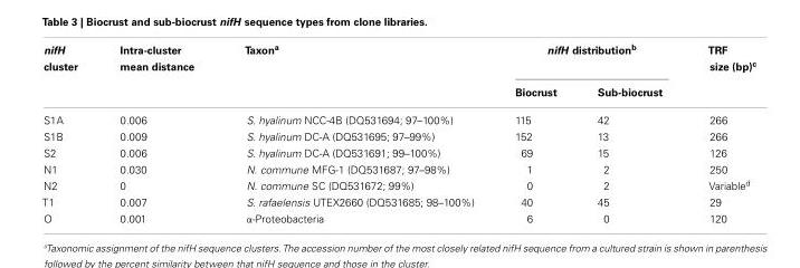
<table><thead><tr><td rowspan="2">nifH cluster</td><td rowspan="2">Intra-cluster mean distance</td><td rowspan="2">Taxon<sup>a</sup></td><td colspan="2">nifH distribution<sup>b</sup></td><td rowspan="2">TRF size (bp)<sup>c</sup></td></tr><tr><td>Biocrust</td><td>Sub-biocrust</td></tr></thead><tbody><tr><td>S1A</td><td>0.006</td><td>S. hyalinum NCC-4B (DQ531694; 97–100%)</td><td>115</td><td>42</td><td>266</td></tr><tr><td>S1B</td><td>0.009</td><td>S. hyalinum DC-A (DQ531695; 97–99%)</td><td>152</td><td>13</td><td>266</td></tr><tr><td>S2</td><td>0.006</td><td>S. hyalinum DC-A (DQ531691; 99–100%)</td><td>69</td><td>15</td><td>126</td></tr><tr><td>N1</td><td>0.030</td><td>N. commune MFG-1 (DQ531687; 97–98%)</td><td>1</td><td>2</td><td>250</td></tr><tr><td>N2</td><td>0</td><td>N. commune SC (DQ531672; 99%)</td><td>0</td><td>2</td><td>Variable<sup>d</sup></td></tr><tr><td>T1</td><td>0.007</td><td>S. rafaelensis UTEX2660 (DQ531685; 98–100%)</td><td>40</td><td>45</td><td>29</td></tr><tr><td>O</td><td>0.001</td><td>α-Proteobacteria</td><td>6</td><td>0</td><td>120</td></tr></tbody></table>